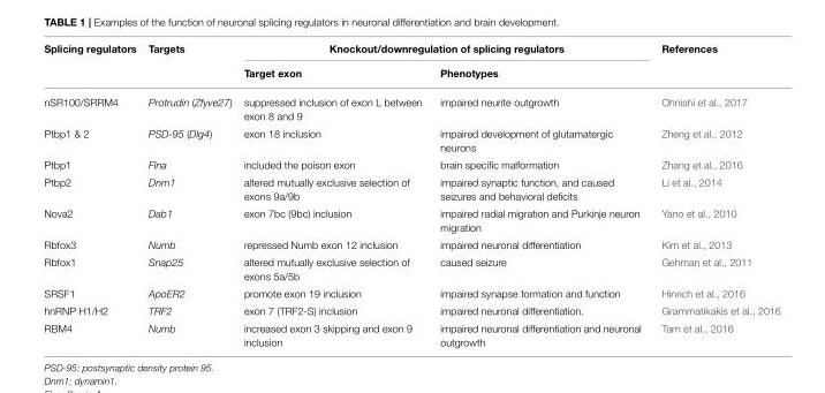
<table><thead><tr><td rowspan="2">Splicing regulators</td><td rowspan="2">Targets</td><td colspan="2">Knockout/downregulation of splicing regulators</td><td rowspan="2">References</td></tr><tr><td>Target exon</td><td>Phenotypes</td></tr></thead><tbody><tr><td>nSR100/SRRM4</td><td>Protrudin (Zfyve27)</td><td>suppressed inclusion of exon L between exon 8 and 9</td><td>impaired neurite outgrowth</td><td>Ohnishi et al., 2017</td></tr><tr><td>Ptbp1 &amp; 2</td><td>PSD-95 (Dlg4)</td><td>exon 18 inclusion</td><td>impaired development of glutamatergic neurons</td><td>Zheng et al., 2012</td></tr><tr><td>Ptbp1</td><td>Flna</td><td>included the poison exon</td><td>brain specific malformation</td><td>Zhang et al., 2016</td></tr><tr><td>Ptbp2</td><td>Dnm1</td><td>altered mutually exclusive selection of exons 9a/9b</td><td>impaired synaptic function, and caused seizures and behavioral deficits</td><td>Li et al., 2014</td></tr><tr><td>Nova2</td><td>Dab1</td><td>exon 7bc (9bc) inclusion</td><td>impaired radial migration and Purkinje neuron migration</td><td>Yano et al., 2010</td></tr><tr><td>Rbfox3</td><td>Numb</td><td>repressed Numb exon 12 inclusion</td><td>impaired neuronal differentiation</td><td>Kim et al., 2013</td></tr><tr><td>Rbfox1</td><td>Snap25</td><td>altered mutually exclusive selection of exons 5a/5b</td><td>caused seizure</td><td>Gehman et al., 2011</td></tr><tr><td>SRSF1</td><td>ApoER2</td><td>promote exon 19 inclusion</td><td>impaired synapse formation and function</td><td>Hinrich et al., 2016</td></tr><tr><td>hnRNP H1/H2</td><td>TRF2</td><td>exon 7 (TRF2-S) inclusion</td><td>impaired neuronal differentiation.</td><td>Grammatikakis et al., 2016</td></tr><tr><td>RBM4</td><td>Numb</td><td>increased exon 3 skipping and exon 9 inclusion</td><td>impaired neuronal differentiation and neuronal outgrowth</td><td>Tarn et al., 2016</td></tr></tbody></table>